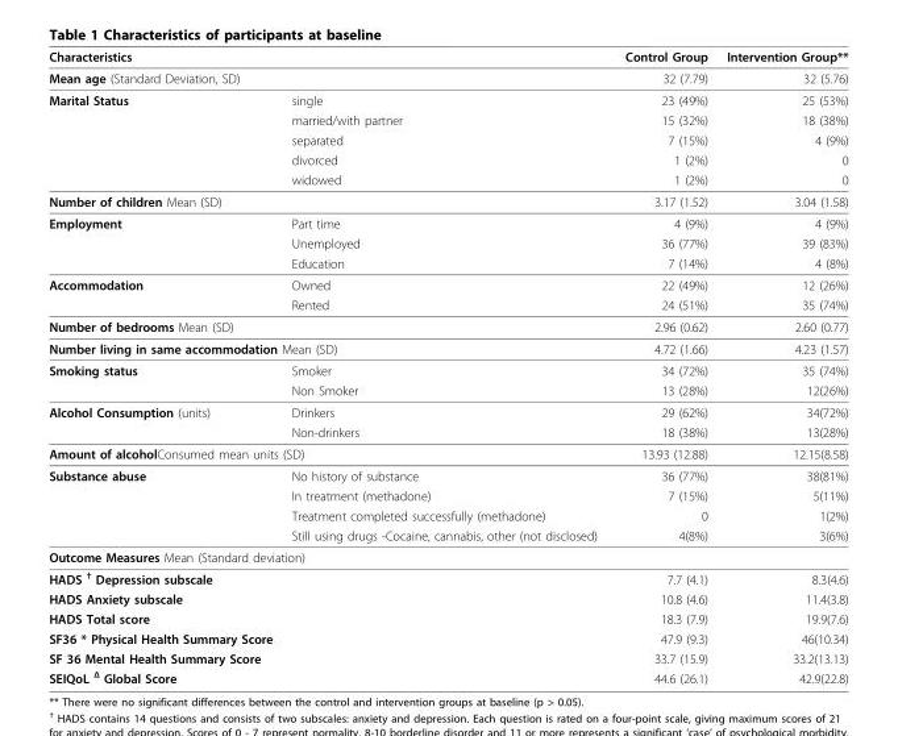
<table><thead><tr><td colspan="2">Characteristics</td><td rowspan="2">Control Group 32 (7.79)</td><td rowspan="2">Intervention Group** 32 (5.76)</td></tr><tr><td>Mean age (Standard Deviation, SD)</td><td></td></tr></thead><tbody><tr><td rowspan="5">Marital Status</td><td>single</td><td>23 (49%)</td><td>25 (53%)</td></tr><tr><td>married/with partner</td><td>15 (32%)</td><td>18 (38%)</td></tr><tr><td>separated</td><td>7 (15%)</td><td>4 (9%)</td></tr><tr><td>divorced</td><td>1 (2%)</td><td>0</td></tr><tr><td>widowed</td><td>1 (2%)</td><td>0</td></tr><tr><td>Number of children Mean (SD)</td><td></td><td>3.17 (1.52)</td><td>3.04 (1.58)</td></tr><tr><td rowspan="3">Employment</td><td>Part time</td><td>4 (9%)</td><td>4 (9%)</td></tr><tr><td>Unemployed</td><td>36 (77%)</td><td>39 (83%)</td></tr><tr><td>Education</td><td>7 (14%)</td><td>4 (8%)</td></tr><tr><td rowspan="2">Accommodation</td><td>Owned</td><td>22 (49%)</td><td>12 (26%)</td></tr><tr><td>Rented</td><td>24 (51%)</td><td>35 (74%)</td></tr><tr><td>Number of bedrooms Mean (SD)</td><td></td><td>2.96 (0.62)</td><td>2.60 (0.77)</td></tr><tr><td colspan="2">Number living in same accommodation Mean (SD)</td><td>4.72 (1.66)</td><td>4.23 (1.57)</td></tr><tr><td rowspan="2">Smoking status</td><td>Smoker</td><td>34 (72%)</td><td>35 (74%)</td></tr><tr><td>Non Smoker</td><td>13 (28%)</td><td>12(26%)</td></tr><tr><td rowspan="2">Alcohol Consumption (units)</td><td>Drinkers</td><td>29 (62%)</td><td>34(72%)</td></tr><tr><td>Non-drinkers</td><td>18 (38%)</td><td>13(28%)</td></tr><tr><td colspan="2">Amount of alcoholConsumed mean units (SD)</td><td>13.93 (12.88)</td><td>12.15(8.58)</td></tr><tr><td rowspan="4">Substance abuse</td><td>No history of substance</td><td>36 (77%)</td><td>38(81%)</td></tr><tr><td>In treatment (methadone)</td><td>7 (15%)</td><td>5(11%)</td></tr><tr><td>Treatment completed successfully (methadone)</td><td>0</td><td>1(2%)</td></tr><tr><td>Still using drugs -Cocaine, cannabis, other (not disclosed)</td><td>4(8%)</td><td>3(6%)</td></tr><tr><td colspan="4">Outcome Measures Mean (Standard deviation)</td></tr><tr><td>HADS <sup>†</sup> Depression subscale</td><td></td><td>7.7 (4.1)</td><td>8.3(4.6)</td></tr><tr><td>HADS Anxiety subscale</td><td></td><td>10.8 (4.6)</td><td>11.4(3.8)</td></tr><tr><td>HADS Total score</td><td></td><td>18.3 (7.9)</td><td>19.9(7.6)</td></tr><tr><td>SF36 * Physical Health Summary Score</td><td></td><td>47.9 (9.3)</td><td>46(10.34)</td></tr><tr><td>SF 36 Mental Health Summary Score</td><td></td><td>33.7 (15.9)</td><td>33.2(13.13)</td></tr><tr><td>SEIQoL <sup>Δ</sup> Global Score</td><td></td><td>44.6 (26.1)</td><td>42.9(22.8)</td></tr></tbody></table>